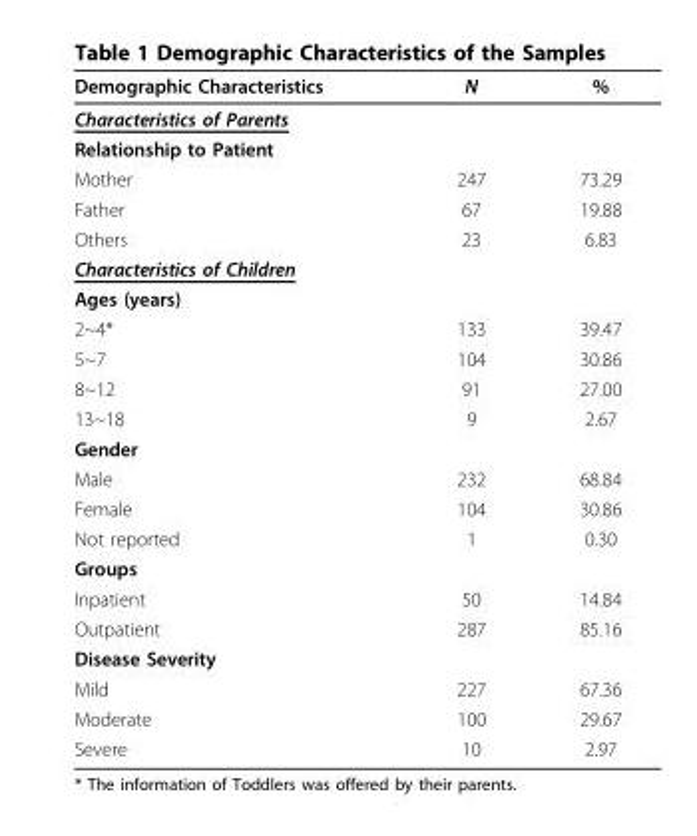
<table><thead><tr><td>Demographic Characteristics</td><td>N</td><td>%</td></tr></thead><tbody><tr><td colspan="3">Characteristics of Parents</td></tr><tr><td colspan="3">Relationship to Patient</td></tr><tr><td>Mother</td><td>247</td><td>73.29</td></tr><tr><td>Father</td><td>67</td><td>19.88</td></tr><tr><td>Others</td><td>23</td><td>6.83</td></tr><tr><td colspan="3">Characteristics of Children</td></tr><tr><td colspan="3">Ages (years)</td></tr><tr><td>2~4*</td><td>133</td><td>39.47</td></tr><tr><td>5~7</td><td>104</td><td>30.86</td></tr><tr><td>8~12</td><td>91</td><td>27.00</td></tr><tr><td>13~18</td><td>9</td><td>2.67</td></tr><tr><td colspan="3">Gender</td></tr><tr><td>Male</td><td>232</td><td>68.84</td></tr><tr><td>Female</td><td>104</td><td>30.86</td></tr><tr><td>Not reported</td><td>1</td><td>0.30</td></tr><tr><td colspan="3">Groups</td></tr><tr><td>Inpatient</td><td>50</td><td>14.84</td></tr><tr><td>Outpatient</td><td>287</td><td>85.16</td></tr><tr><td colspan="3">Disease Severity</td></tr><tr><td>Mild</td><td>227</td><td>67.36</td></tr><tr><td>Moderate</td><td>100</td><td>29.67</td></tr><tr><td>Severe</td><td>10</td><td>2.97</td></tr></tbody></table>